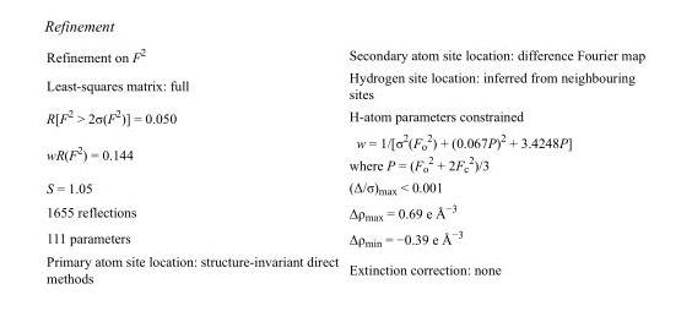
<table><tbody><tr><td>Refinement on F<sup>2</sup></td><td>Secondary atom site location: difference Fourier map</td></tr><tr><td>Least-squares matrix: full</td><td>Hydrogen site location: inferred from neighbouring sites</td></tr><tr><td>R[F<sup>2</sup> &gt; 2σ(F<sup>2</sup>)] = 0.050</td><td>H-atom parameters constrained</td></tr><tr><td>wR(F<sup>2</sup>) = 0.144</td><td>w = 1/[σ<sup>2</sup>(F<sub>o</sub> <sup>2</sup>) + (0.067P)<sup>2</sup> + 3.4248P] where P = (F<sub>o</sub> <sup>2</sup> + 2F<sub>c</sub> <sup>2</sup>)/3</td></tr><tr><td>S = 1.05</td><td>(Δ/σ)<sub>max</sub> &lt; 0.001</td></tr><tr><td>1655 reflections</td><td>Δρ<sub>max</sub> = 0.69 e Å<sup>−3</sup></td></tr><tr><td>111 parameters</td><td>Δρ<sub>min</sub> = −0.39 e Å<sup>−3</sup></td></tr><tr><td>Primary atom site location: structure-invariant direct methods</td><td>Extinction correction: none</td></tr></tbody></table>